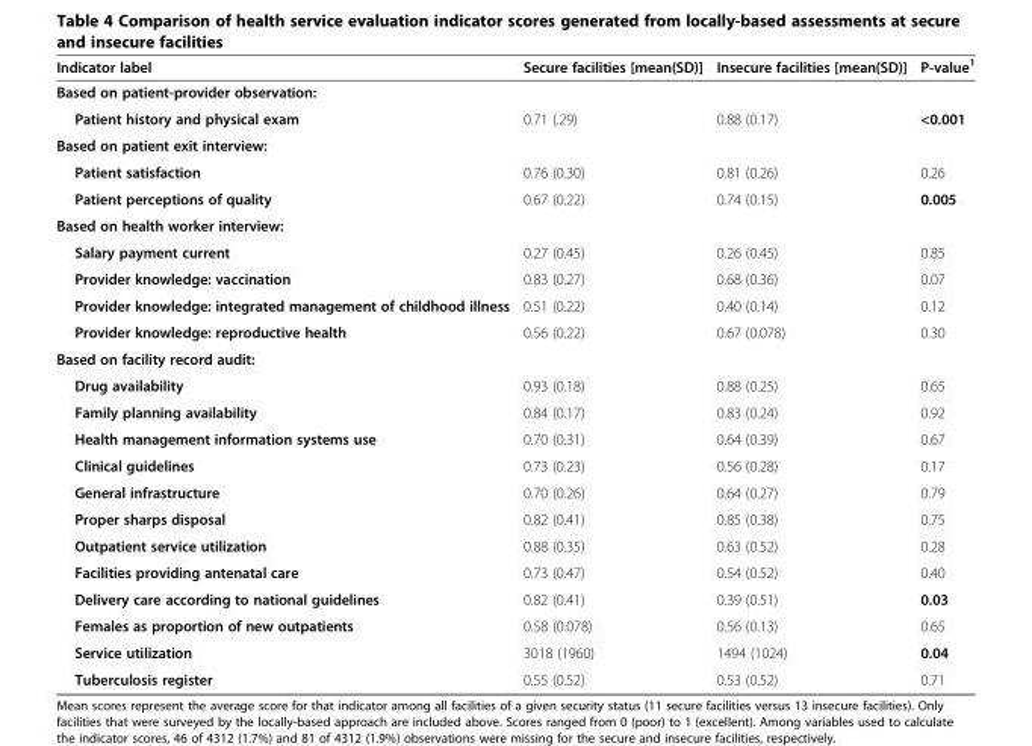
<table><thead><tr><td>Indicator label</td><td>Secure facilities [mean(SD)]</td><td>Insecure facilities [mean(SD)]</td><td>P-value<sup>1</sup></td></tr></thead><tbody><tr><td colspan="4">Based on patient-provider observation:</td></tr><tr><td>Patient history and physical exam</td><td>0.71 (.29)</td><td>0.88 (0.17)</td><td>&lt;0.001</td></tr><tr><td colspan="4">Based on patient exit interview:</td></tr><tr><td>Patient satisfaction</td><td>0.76 (0.30)</td><td>0.81 (0.26)</td><td>0.26</td></tr><tr><td>Patient perceptions of quality</td><td>0.67 (0.22)</td><td>0.74 (0.15)</td><td>0.005</td></tr><tr><td colspan="4">Based on health worker interview:</td></tr><tr><td>Salary payment current</td><td>0.27 (0.45)</td><td>0.26 (0.45)</td><td>0.85</td></tr><tr><td>Provider knowledge: vaccination</td><td>0.83 (0.27)</td><td>0.68 (0.36)</td><td>0.07</td></tr><tr><td>Provider knowledge: integrated management of childhood illness</td><td>0.51 (0.22)</td><td>0.40 (0.14)</td><td>0.12</td></tr><tr><td>Provider knowledge: reproductive health</td><td>0.56 (0.22)</td><td>0.67 (0.078)</td><td>0.30</td></tr><tr><td colspan="4">Based on facility record audit:</td></tr><tr><td>Drug availability</td><td>0.93 (0.18)</td><td>0.88 (0.25)</td><td>0.65</td></tr><tr><td>Family planning availability</td><td>0.84 (0.17)</td><td>0.83 (0.24)</td><td>0.92</td></tr><tr><td>Health management information systems use</td><td>0.70 (0.31)</td><td>0.64 (0.39)</td><td>0.67</td></tr><tr><td>Clinical guidelines</td><td>0.73 (0.23)</td><td>0.56 (0.28)</td><td>0.17</td></tr><tr><td>General infrastructure</td><td>0.70 (0.26)</td><td>0.64 (0.27)</td><td>0.79</td></tr><tr><td>Proper sharps disposal</td><td>0.82 (0.41)</td><td>0.85 (0.38)</td><td>0.75</td></tr><tr><td>Outpatient service utilization</td><td>0.88 (0.35)</td><td>0.63 (0.52)</td><td>0.28</td></tr><tr><td>Facilities providing antenatal care</td><td>0.73 (0.47)</td><td>0.54 (0.52)</td><td>0.40</td></tr><tr><td>Delivery care according to national guidelines</td><td>0.82 (0.41)</td><td>0.39 (0.51)</td><td>0.03</td></tr><tr><td>Females as proportion of new outpatients</td><td>0.58 (0.078)</td><td>0.56 (0.13)</td><td>0.65</td></tr><tr><td>Service utilization</td><td>3018 (1960)</td><td>1494 (1024)</td><td>0.04</td></tr><tr><td>Tuberculosis register</td><td>0.55 (0.52)</td><td>0.53 (0.52)</td><td>0.71</td></tr></tbody></table>